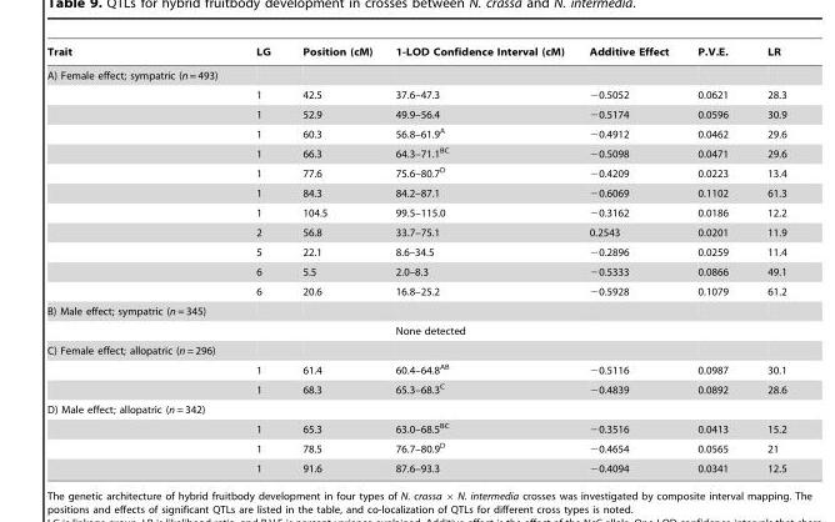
<table><thead><tr><td>Trait</td><td>LG</td><td>Position (cM)</td><td>1-LOD Confidence Interval (cM)</td><td>Additive Effect</td><td>P.V.E.</td><td>LR</td></tr></thead><tbody><tr><td colspan="7">A) Female effect; sympatric (n = 493)</td></tr><tr><td></td><td>1</td><td>42.5</td><td>37.6–47.3</td><td>−0.5052</td><td>0.0621</td><td>28.3</td></tr><tr><td></td><td>1</td><td>52.9</td><td>49.9–56.4</td><td>−0.5174</td><td>0.0596</td><td>30.9</td></tr><tr><td></td><td>1</td><td>60.3</td><td>56.8–61.9<sup>A</sup></td><td>−0.4912</td><td>0.0462</td><td>29.6</td></tr><tr><td></td><td>1</td><td>66.3</td><td>64.3–71.1<sup>BC</sup></td><td>−0.5098</td><td>0.0471</td><td>29.6</td></tr><tr><td></td><td>1</td><td>77.6</td><td>75.6–80.7<sup>D</sup></td><td>−0.4209</td><td>0.0223</td><td>13.4</td></tr><tr><td></td><td>1</td><td>84.3</td><td>84.2–87.1</td><td>−0.6069</td><td>0.1102</td><td>61.3</td></tr><tr><td></td><td>1</td><td>104.5</td><td>99.5–115.0</td><td>−0.3162</td><td>0.0186</td><td>12.2</td></tr><tr><td></td><td>2</td><td>56.8</td><td>33.7–75.1</td><td>0.2543</td><td>0.0201</td><td>11.9</td></tr><tr><td></td><td>5</td><td>22.1</td><td>8.6–34.5</td><td>−0.2896</td><td>0.0259</td><td>11.4</td></tr><tr><td></td><td>6</td><td>5.5</td><td>2.0–8.3</td><td>−0.5333</td><td>0.0866</td><td>49.1</td></tr><tr><td></td><td>6</td><td>20.6</td><td>16.8–25.2</td><td>−0.5928</td><td>0.1079</td><td>61.2</td></tr><tr><td colspan="7">B) Male effect; sympatric (n = 345)</td></tr><tr><td></td><td></td><td></td><td>None detected</td><td></td><td></td><td></td></tr><tr><td colspan="7">C) Female effect; allopatric (n = 296)</td></tr><tr><td></td><td>1</td><td>61.4</td><td>60.4–64.8<sup>AB</sup></td><td>−0.5116</td><td>0.0987</td><td>30.1</td></tr><tr><td></td><td>1</td><td>68.3</td><td>65.3–68.3<sup>C</sup></td><td>−0.4839</td><td>0.0892</td><td>28.6</td></tr><tr><td colspan="7">D) Male effect; allopatric (n = 342)</td></tr><tr><td></td><td>1</td><td>65.3</td><td>63.0–68.5<sup>BC</sup></td><td>−0.3516</td><td>0.0413</td><td>15.2</td></tr><tr><td></td><td>1</td><td>78.5</td><td>76.7–80.9<sup>D</sup></td><td>−0.4654</td><td>0.0565</td><td>21</td></tr><tr><td></td><td>1</td><td>91.6</td><td>87.6–93.3</td><td>−0.4094</td><td>0.0341</td><td>12.5</td></tr></tbody></table>